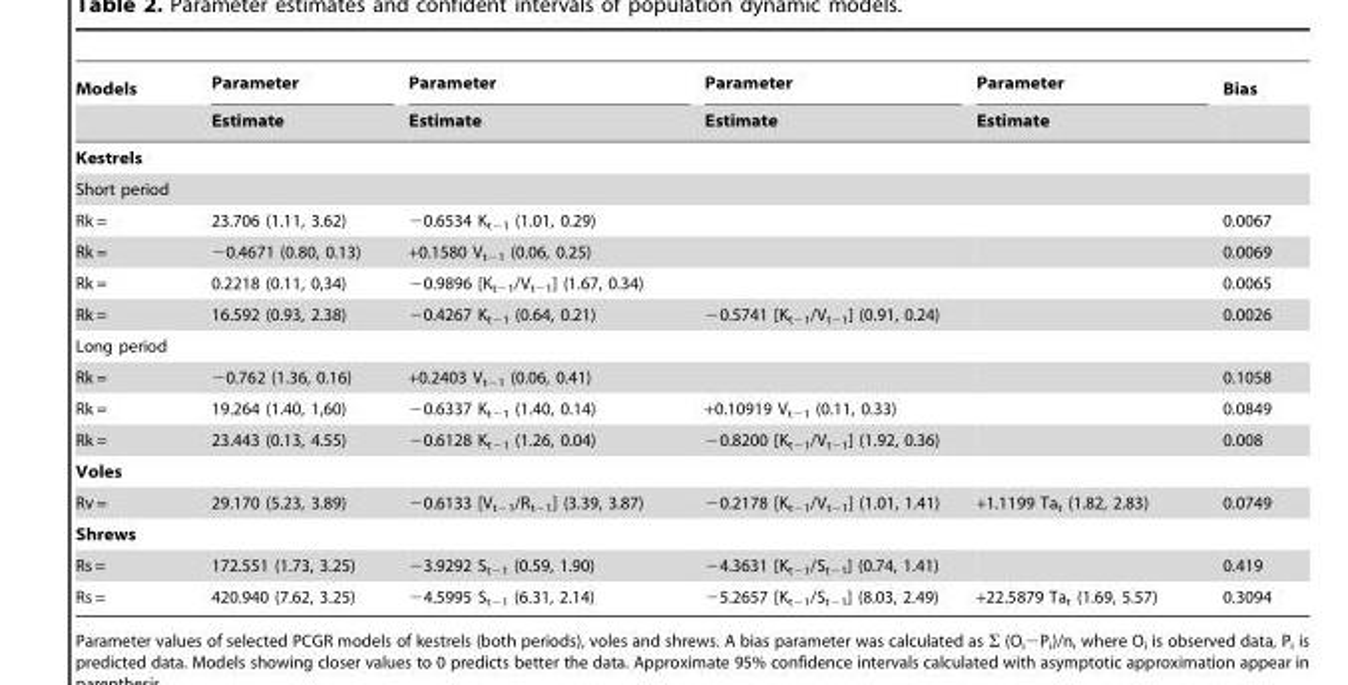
<table><thead><tr><td rowspan="2">Models</td><td rowspan="2">Parameter Estimate</td><td rowspan="2">Parameter Estimate</td><td rowspan="2">Parameter Estimate</td><td rowspan="2">Parameter Estimate</td><td rowspan="2">Bias</td></tr><tr></tr></thead><tbody><tr><td colspan="6">Kestrels</td></tr><tr><td colspan="6">Short period</td></tr><tr><td>Rk =</td><td>23.706 (1.11, 3.62)</td><td>−0.6534 K<sub>t−1</sub> (1.01, 0.29)</td><td></td><td></td><td>0.0067</td></tr><tr><td>Rk =</td><td>−0.4671 (0.80, 0.13)</td><td>+0.1580 V<sub>t−1</sub> (0.06, 0.25)</td><td></td><td></td><td>0.0069</td></tr><tr><td>Rk =</td><td>0.2218 (0.11, 0,34)</td><td>−0.9896 [K<sub>t−1</sub>/V<sub>t−1</sub>] (1.67, 0.34)</td><td></td><td></td><td>0.0065</td></tr><tr><td>Rk =</td><td>16.592 (0.93, 2.38)</td><td>−0.4267 K<sub>t−1</sub> (0.64, 0.21)</td><td>−0.5741 [K<sub>t−1</sub>/V<sub>t−1</sub>] (0.91, 0.24)</td><td></td><td>0.0026</td></tr><tr><td colspan="6">Long period</td></tr><tr><td>Rk =</td><td>−0.762 (1.36, 0.16)</td><td>+0.2403 V<sub>t−1</sub> (0.06, 0.41)</td><td></td><td></td><td>0.1058</td></tr><tr><td>Rk =</td><td>19.264 (1.40, 1,60)</td><td>−0.6337 K<sub>t−1</sub> (1.40, 0.14)</td><td>+0.10919 V<sub>t−1</sub> (0.11, 0.33)</td><td></td><td>0.0849</td></tr><tr><td>Rk =</td><td>23.443 (0.13, 4.55)</td><td>−0.6128 K<sub>t−1</sub> (1.26, 0.04)</td><td>−0.8200 [K<sub>t−1</sub>/V<sub>t−1</sub>] (1.92, 0.36)</td><td></td><td>0.008</td></tr><tr><td colspan="6">Voles</td></tr><tr><td>Rv =</td><td>29.170 (5.23, 3.89)</td><td>−0.6133 [V<sub>t−1</sub>/R<sub>t−1</sub>] (3.39, 3.87)</td><td>−0.2178 [K<sub>t−1</sub>/V<sub>t−1</sub>] (1.01, 1.41)</td><td>+1.1199 Ta<sub>t</sub> (1.82, 2.83)</td><td>0.0749</td></tr><tr><td colspan="6">Shrews</td></tr><tr><td>Rs =</td><td>172.551 (1.73, 3.25)</td><td>−3.9292 S<sub>t−1</sub> (0.59, 1.90)</td><td>−4.3631 [K<sub>t−1</sub>/S<sub>t−1</sub>] (0.74, 1.41)</td><td></td><td>0.419</td></tr><tr><td>Rs =</td><td>420.940 (7.62, 3.25)</td><td>−4.5995 S<sub>t−1</sub> (6.31, 2.14)</td><td>−5.2657 [K<sub>t−1</sub>/S<sub>t−1</sub>] (8.03, 2.49)</td><td>+22.5879 Ta<sub>t</sub> (1.69, 5.57)</td><td>0.3094</td></tr></tbody></table>